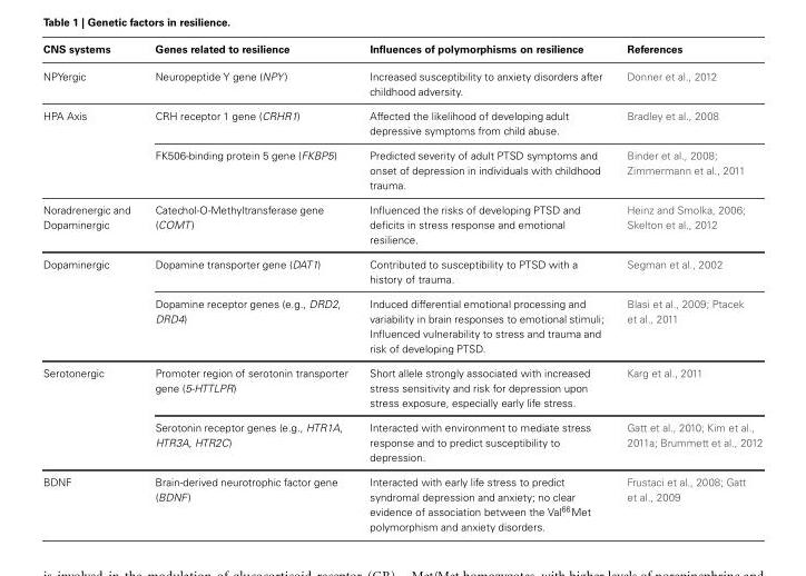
<table><thead><tr><td>CNS systems</td><td>Genes related to resilience</td><td>Influences of polymorphisms on resilience</td><td>References</td></tr></thead><tbody><tr><td>NPYergic</td><td>Neuropeptide Y gene (NPY)</td><td>Increased susceptibility to anxiety disorders after childhood adversity.</td><td>Donner et al., 2012</td></tr><tr><td rowspan="2">HPA Axis</td><td>CRH receptor 1 gene (CRHR1)</td><td>Affected the likelihood of developing adult depressive symptoms from child abuse.</td><td>Bradley et al., 2008</td></tr><tr><td>FK506-binding protein 5 gene (FKBP5)</td><td>Predicted severity of adult PTSD symptoms and onset of depression in individuals with childhood trauma.</td><td>Binder et al., 2008; Zimmermann et al., 2011</td></tr><tr><td>Noradrenergic and Dopaminergic</td><td>Catechol-O-Methyltransferase gene (COMT )</td><td>Influenced the risks of developing PTSD and deficits in stress response and emotional resilience.</td><td>Heinz and Smolka, 2006; Skelton et al., 2012</td></tr><tr><td rowspan="2">Dopaminergic</td><td>Dopamine transporter gene (DAT1)</td><td>Contributed to susceptibility to PTSD with a history of trauma.</td><td>Segman et al., 2002</td></tr><tr><td>Dopamine receptor genes (e.g., DRD2, DRD4)</td><td>Induced differential emotional processing and variability in brain responses to emotional stimuli; Influenced vulnerability to stress and trauma and risk of developing PTSD.</td><td>Blasi et al., 2009; Ptacek et al., 2011</td></tr><tr><td rowspan="2">Serotonergic</td><td>Promoter region of serotonin transporter gene (5-HTTLPR)</td><td>Short allele strongly associated with increased stress sensitivity and risk for depression upon stress exposure, especially early life stress.</td><td>Karg et al., 2011</td></tr><tr><td>Serotonin receptor genes (e.g., HTR1A, HTR3A, HTR2C)</td><td>Interacted with environment to mediate stress response and to predict susceptibility to depression.</td><td>Gatt et al., 2010; Kim et al., 2011a; Brummett et al., 2012</td></tr><tr><td>BDNF</td><td>Brain-derived neurotrophic factor gene (BDNF)</td><td>Interacted with early life stress to predict syndromal depression and anxiety; no clear evidence of association between the Val<sup>66</sup>Met polymorphism and anxiety disorders.</td><td>Frustaci et al., 2008; Gatt et al., 2009</td></tr></tbody></table>